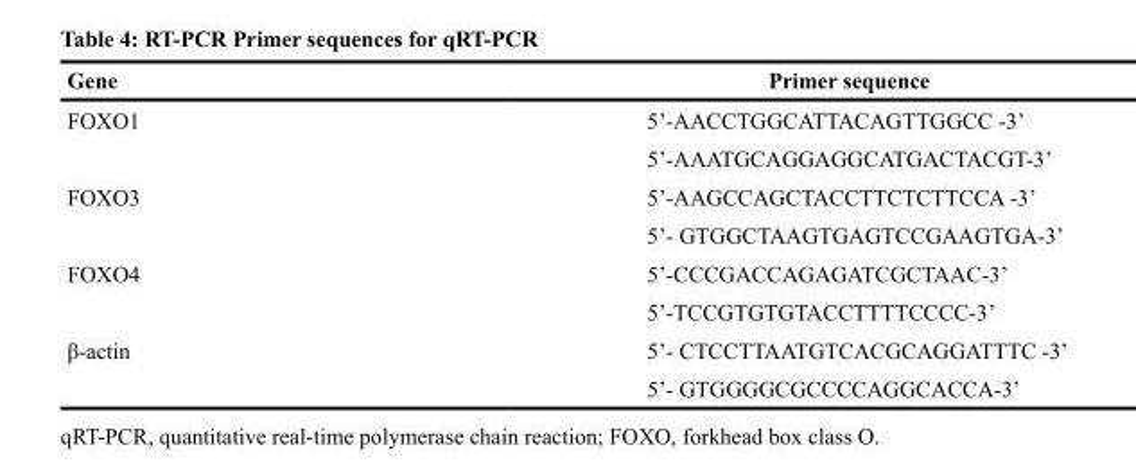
<table><thead><tr><td>Gene</td><td>Primer sequence</td></tr></thead><tbody><tr><td rowspan="2">FOXO1</td><td>5’-AACCTGGCATTACAGTTGGCC -3’</td></tr><tr><td>5’-AAATGCAGGAGGCATGACTACGT-3’</td></tr><tr><td rowspan="2">FOXO3</td><td>5’-AAGCCAGCTACCTTCTCTTCCA -3’</td></tr><tr><td>5’- GTGGCTAAGTGAGTCCGAAGTGA-3’</td></tr><tr><td rowspan="2">FOXO4</td><td>5’-CCCGACCAGAGATCGCTAAC-3’</td></tr><tr><td>5’-TCCGTGTGTACCTTTTCCCC-3’</td></tr><tr><td rowspan="2">β-actin</td><td>5’- CTCCTTAATGTCACGCAGGATTTC -3’</td></tr><tr><td>5’- GTGGGGCGCCCCAGGCACCA-3’</td></tr></tbody></table>